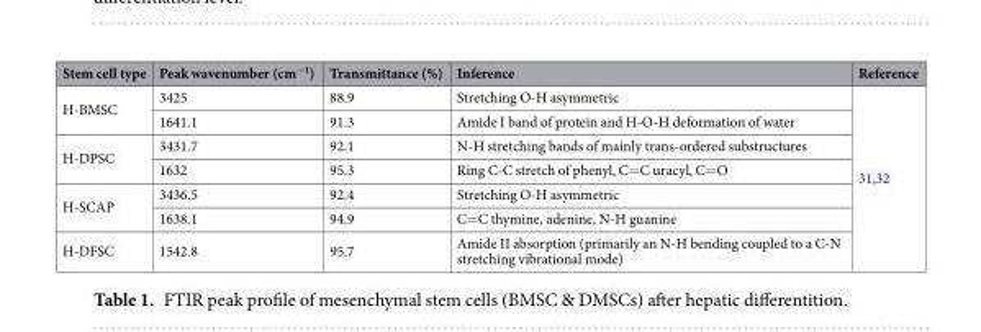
<table><thead><tr><td>Stem cell type</td><td>Peak wavenumber (cm<sup>−1</sup>)</td><td>Transmittance (%)</td><td>Inference</td><td>Reference</td></tr></thead><tbody><tr><td rowspan="2">H-BMSC</td><td>3425</td><td>88.9</td><td>Stretching O-H asymmetric</td><td rowspan="7">31,32</td></tr><tr><td>1641.1</td><td>91.3</td><td>Amide I band of protein and H-O-H deformation of water</td></tr><tr><td rowspan="2">H-DPSC</td><td>3431.7</td><td>92.1</td><td>N-H stretching bands of mainly trans-ordered substructures</td></tr><tr><td>1632</td><td>95.3</td><td>Ring C-C stretch of phenyl, C=C uracyl, C=O</td></tr><tr><td rowspan="2">H-SCAP</td><td>3436.5</td><td>92.4</td><td>Stretching O-H asymmetric</td></tr><tr><td>1638.1</td><td>94.9</td><td>C=C thymine, adenine, N-H guanine</td></tr><tr><td>H-DFSC</td><td>1542.8</td><td>95.7</td><td>Amide II absorption (primarily an N-H bending coupled to a C-N stretching vibrational mode)</td></tr></tbody></table>